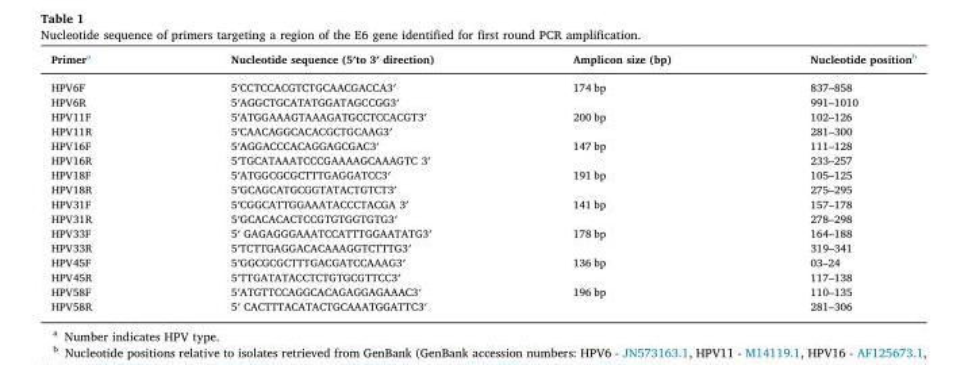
<table><thead><tr><td>Primer<sup>a</sup></td><td>Nucleotide sequence (5′to 3′ direction)</td><td>Amplicon size (bp)</td><td>Nucleotide position<sup>b</sup></td></tr></thead><tbody><tr><td>HPV6F</td><td>5′CCTCCACGTCTGCAACGACCA3′</td><td rowspan="2">174 bp</td><td>837–858</td></tr><tr><td>HPV6R</td><td>5′AGGCTGCATATGGATAGCCGG3′</td><td>991–1010</td></tr><tr><td>HPV11F</td><td>5′ATGGAAAGTAAAGATGCCTCCACGT3′</td><td rowspan="2">200 bp</td><td>102–126</td></tr><tr><td>HPV11R</td><td>5′CAACAGGCACACGCTGCAAG3′</td><td>281–300</td></tr><tr><td>HPV16F</td><td>5′AGGACCCACAGGAGCGAC3′</td><td rowspan="2">147 bp</td><td>111–128</td></tr><tr><td>HPV16R</td><td>5′TGCATAAATCCCGAAAAGCAAAGTC 3′</td><td>233–257</td></tr><tr><td>HPV18F</td><td>5′ATGGCGCGCTTTGAGGATCC3′</td><td rowspan="2">191 bp</td><td>105–125</td></tr><tr><td>HPV18R</td><td>5′GCAGCATGCGGTATACTGTCT3′</td><td>275–295</td></tr><tr><td>HPV31F</td><td>5′CGGCATTGGAAATACCCTACGA 3′</td><td rowspan="2">141 bp</td><td>157–178</td></tr><tr><td>HPV31R</td><td>5′GCACACACTCCGTGTGGTGTG3′</td><td>278–298</td></tr><tr><td>HPV33F</td><td>5′ GAGAGGGAAATCCATTTGGAATATG3′</td><td rowspan="2">178 bp</td><td>164–188</td></tr><tr><td>HPV33R</td><td>5′TCTTGAGGACACAAAGGTCTTTG3′</td><td>319–341</td></tr><tr><td>HPV45F</td><td>5′GGCGCGCTTTGACGATCCAAAG3′</td><td rowspan="2">136 bp</td><td>03–24</td></tr><tr><td>HPV45R</td><td>5′TTGATATACCTCTGTGCGTTCC3′</td><td>117–138</td></tr><tr><td>HPV58F</td><td>5′ATGTTCCAGGCACAGAGGAGAAAC3′</td><td rowspan="2">196 bp</td><td>110–135</td></tr><tr><td>HPV58R</td><td>5′ CACTTTACATACTGCAAATGGATTC3′</td><td>281–306</td></tr></tbody></table>